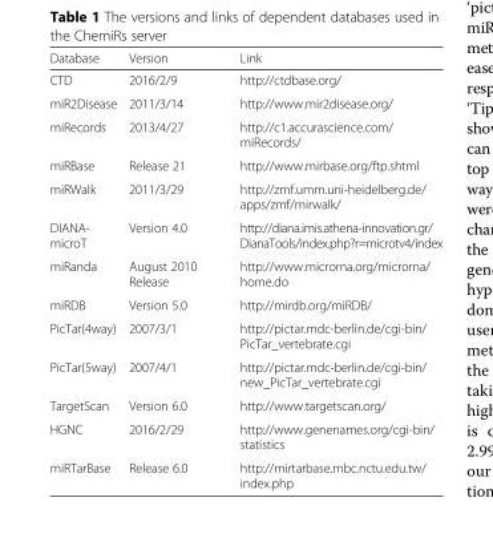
<table><thead><tr><td>Database</td><td>Version</td><td>Link</td></tr></thead><tbody><tr><td>CTD</td><td>2016/2/9</td><td>http://ctdbase.org/</td></tr><tr><td>miR2Disease</td><td>2011/3/14</td><td>http://www.mir2disease.org/</td></tr><tr><td>miRecords</td><td>2013/4/27</td><td>http://c1.accurascience.com/ miRecords/</td></tr><tr><td>miRBase</td><td>Release 21</td><td>http://www.mirbase.org/ftp.shtml</td></tr><tr><td>miRWalk</td><td>2011/3/29</td><td>http://zmf.umm.uni-heidelberg.de/ apps/zmf/mirwalk/</td></tr><tr><td>DIANA- microT</td><td>Version 4.0</td><td>http://diana.imis.athena-innovation.gr/ DianaTools/index.php?r=microtv4/index</td></tr><tr><td>miRanda</td><td>August 2010 Release</td><td>http://www.microrna.org/microrna/ home.do</td></tr><tr><td>miRDB</td><td>Version 5.0</td><td>http://mirdb.org/miRDB/</td></tr><tr><td>PicTar(4way)</td><td>2007/3/1</td><td>http://pictar.mdc-berlin.de/cgi-bin/ PicTar_vertebrate.cgi</td></tr><tr><td>PicTar(5way)</td><td>2007/4/1</td><td>http://pictar.mdc-berlin.de/cgi-bin/ new_PicTar_vertebrate.cgi</td></tr><tr><td>TargetScan</td><td>Version 6.0</td><td>http://www.targetscan.org/</td></tr><tr><td>HGNC</td><td>2016/2/29</td><td>http://www.genenames.org/cgi-bin/ statistics</td></tr><tr><td>miRTarBase</td><td>Release 6.0</td><td>http://mirtarbase.mbc.nctu.edu.tw/ index.php</td></tr></tbody></table>